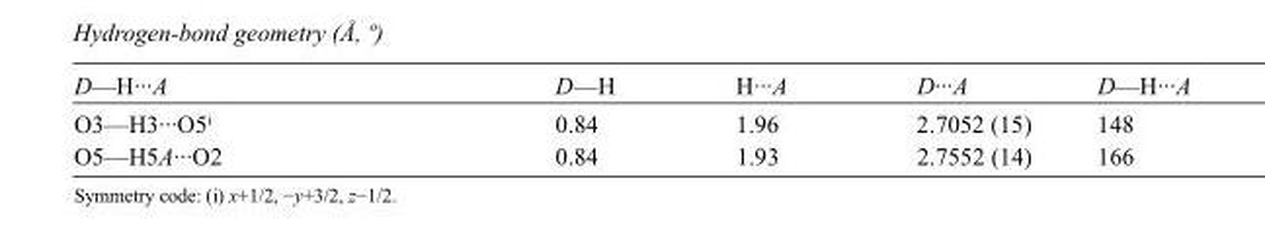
<table><tbody><tr><td>D—H···A</td><td>D—H</td><td>H···A</td><td>D···A</td><td>D—H···A</td></tr><tr><td>O3—H3···O5<sup>i</sup></td><td>0.84</td><td>1.96</td><td>2.7052 (15)</td><td>148</td></tr><tr><td>O5—H5A···O2</td><td>0.84</td><td>1.93</td><td>2.7552 (14)</td><td>166</td></tr></tbody></table>